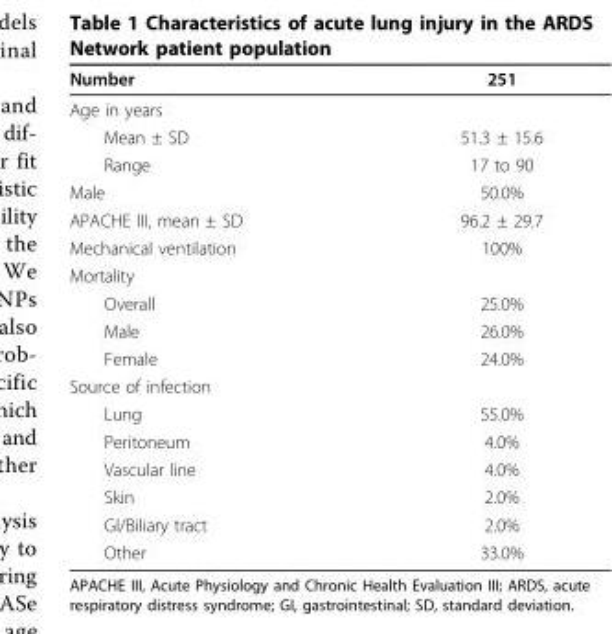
<table><thead><tr><td>Number</td><td>251</td></tr></thead><tbody><tr><td colspan="2">Age in years</td></tr><tr><td>Mean ± SD</td><td>51.3 ± 15.6</td></tr><tr><td>Range</td><td>17 to 90</td></tr><tr><td>Male</td><td>50.0%</td></tr><tr><td>APACHE III, mean ± SD</td><td>96.2 ± 29.7</td></tr><tr><td>Mechanical ventilation</td><td>100%</td></tr><tr><td colspan="2">Mortality</td></tr><tr><td>Overall</td><td>25.0%</td></tr><tr><td>Male</td><td>26.0%</td></tr><tr><td>Female</td><td>24.0%</td></tr><tr><td colspan="2">Source of infection</td></tr><tr><td>Lung</td><td>55.0%</td></tr><tr><td>Peritoneum</td><td>4.0%</td></tr><tr><td>Vascular line</td><td>4.0%</td></tr><tr><td>Skin</td><td>2.0%</td></tr><tr><td>GI/Biliary tract</td><td>2.0%</td></tr><tr><td>Other</td><td>33.0%</td></tr></tbody></table>